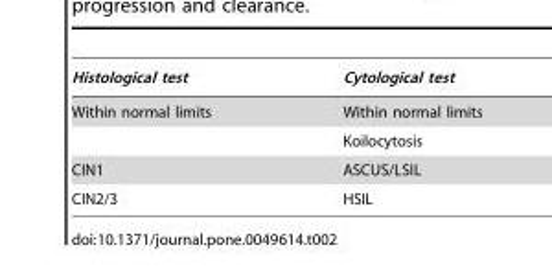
<table><thead><tr><td>Histological test</td><td>Cytological test</td></tr></thead><tbody><tr><td rowspan="2">Within normal limits</td><td>Within normal limits</td></tr><tr><td>Koilocytosis</td></tr><tr><td>CIN1</td><td>ASCUS/LSIL</td></tr><tr><td>CIN2/3</td><td>HSIL</td></tr></tbody></table>